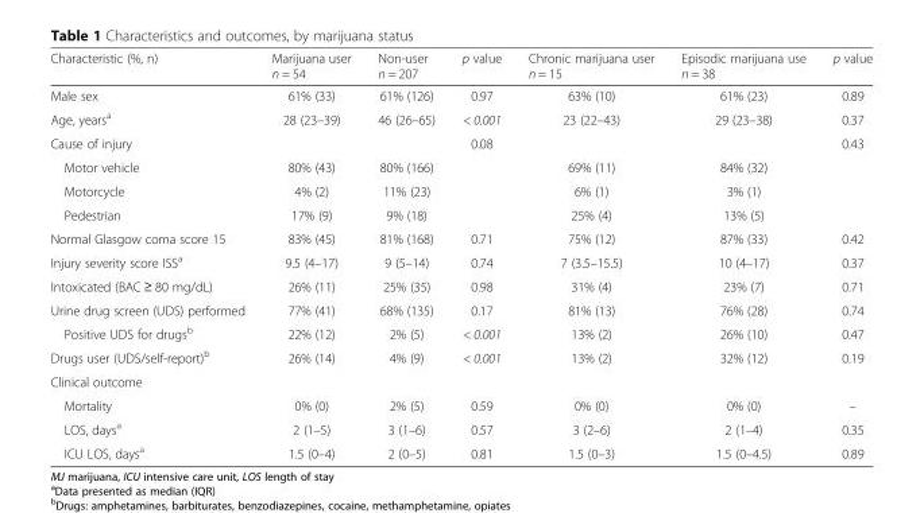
<table><thead><tr><td>Characteristic (%, n)</td><td>Marijuana user n = 54</td><td>Non-user n = 207</td><td>p value</td><td>Chronic marijuana user n = 15</td><td>Episodic marijuana use n = 38</td><td>p value</td></tr></thead><tbody><tr><td>Male sex</td><td>61% (33)</td><td>61% (126)</td><td>0.97</td><td>63% (10)</td><td>61% (23)</td><td>0.89</td></tr><tr><td>Age, years<sup>a</sup></td><td>28 (23–39)</td><td>46 (26–65)</td><td>&lt; 0.001</td><td>23 (22–43)</td><td>29 (23–38)</td><td>0.37</td></tr><tr><td>Cause of injury</td><td></td><td></td><td>0.08</td><td></td><td></td><td>0.43</td></tr><tr><td>Motor vehicle</td><td>80% (43)</td><td>80% (166)</td><td></td><td>69% (11)</td><td>84% (32)</td><td></td></tr><tr><td>Motorcycle</td><td>4% (2)</td><td>11% (23)</td><td></td><td>6% (1)</td><td>3% (1)</td><td></td></tr><tr><td>Pedestrian</td><td>17% (9)</td><td>9% (18)</td><td></td><td>25% (4)</td><td>13% (5)</td><td></td></tr><tr><td>Normal Glasgow coma score 15</td><td>83% (45)</td><td>81% (168)</td><td>0.71</td><td>75% (12)</td><td>87% (33)</td><td>0.42</td></tr><tr><td>Injury severity score ISS<sup>a</sup></td><td>9.5 (4–17)</td><td>9 (5–14)</td><td>0.74</td><td>7 (3.5–15.5)</td><td>10 (4–17)</td><td>0.37</td></tr><tr><td>Intoxicated (BAC ≥ 80 mg/dL)</td><td>26% (11)</td><td>25% (35)</td><td>0.98</td><td>31% (4)</td><td>23% (7)</td><td>0.71</td></tr><tr><td>Urine drug screen (UDS) performed</td><td>77% (41)</td><td>68% (135)</td><td>0.17</td><td>81% (13)</td><td>76% (28)</td><td>0.74</td></tr><tr><td>Positive UDS for drugs<sup>b</sup></td><td>22% (12)</td><td>2% (5)</td><td>&lt; 0.001</td><td>13% (2)</td><td>26% (10)</td><td>0.47</td></tr><tr><td>Drugs user (UDS/self-report)<sup>b</sup></td><td>26% (14)</td><td>4% (9)</td><td>&lt; 0.001</td><td>13% (2)</td><td>32% (12)</td><td>0.19</td></tr><tr><td colspan="7">Clinical outcome</td></tr><tr><td>Mortality</td><td>0% (0)</td><td>2% (5)</td><td>0.59</td><td>0% (0)</td><td>0% (0)</td><td>–</td></tr><tr><td>LOS, days<sup>a</sup></td><td>2 (1–5)</td><td>3 (1–6)</td><td>0.57</td><td>3 (2–6)</td><td>2 (1–4)</td><td>0.35</td></tr><tr><td>ICU LOS, days<sup>a</sup></td><td>1.5 (0–4)</td><td>2 (0–5)</td><td>0.81</td><td>1.5 (0–3)</td><td>1.5 (0–4.5)</td><td>0.89</td></tr></tbody></table>